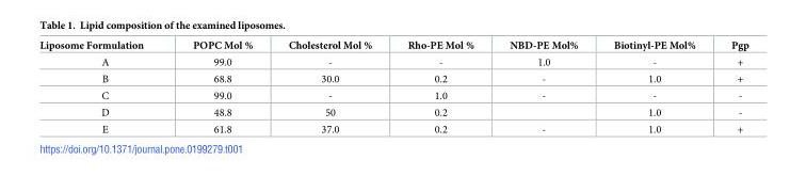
<table><thead><tr><td>Liposome Formulation</td><td>POPC Mol %</td><td>Cholesterol Mol %</td><td>Rho-PE Mol %</td><td>NBD-PE Mol%</td><td>Biotinyl-PE Mol%</td><td>Pgp</td></tr></thead><tbody><tr><td>A</td><td>99.0</td><td>-</td><td>-</td><td>1.0</td><td>-</td><td>+</td></tr><tr><td>B</td><td>68.8</td><td>30.0</td><td>0.2</td><td>-</td><td>1.0</td><td>+</td></tr><tr><td>C</td><td>99.0</td><td>-</td><td>1.0</td><td>-</td><td>-</td><td>-</td></tr><tr><td>D</td><td>48.8</td><td>50</td><td>0.2</td><td></td><td>1.0</td><td>-</td></tr><tr><td>E</td><td>61.8</td><td>37.0</td><td>0.2</td><td>-</td><td>1.0</td><td>+</td></tr></tbody></table>